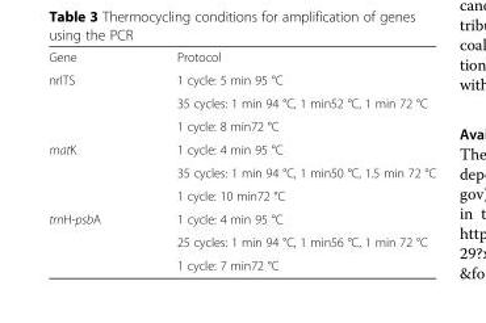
<table><tbody><tr><td>Gene</td><td>Protocol</td></tr><tr><td rowspan="3">nrITS</td><td>1 cycle: 5 min 95 °C</td></tr><tr><td>35 cycles: 1 min 94 °C, 1 min52 °C, 1 min 72 °C</td></tr><tr><td>1 cycle: 8 min72 °C</td></tr><tr><td rowspan="3">matK</td><td>1 cycle: 4 min 95 °C</td></tr><tr><td>35 cycles: 1 min 94 °C, 1 min50 °C, 1.5 min 72 °C</td></tr><tr><td>1 cycle: 10 min72 °C</td></tr><tr><td rowspan="3">trnH-psbA</td><td>1 cycle: 4 min 95 °C</td></tr><tr><td>25 cycles: 1 min 94 °C, 1 min56 °C, 1 min 72 °C</td></tr><tr><td>1 cycle: 7 min72 °C</td></tr></tbody></table>